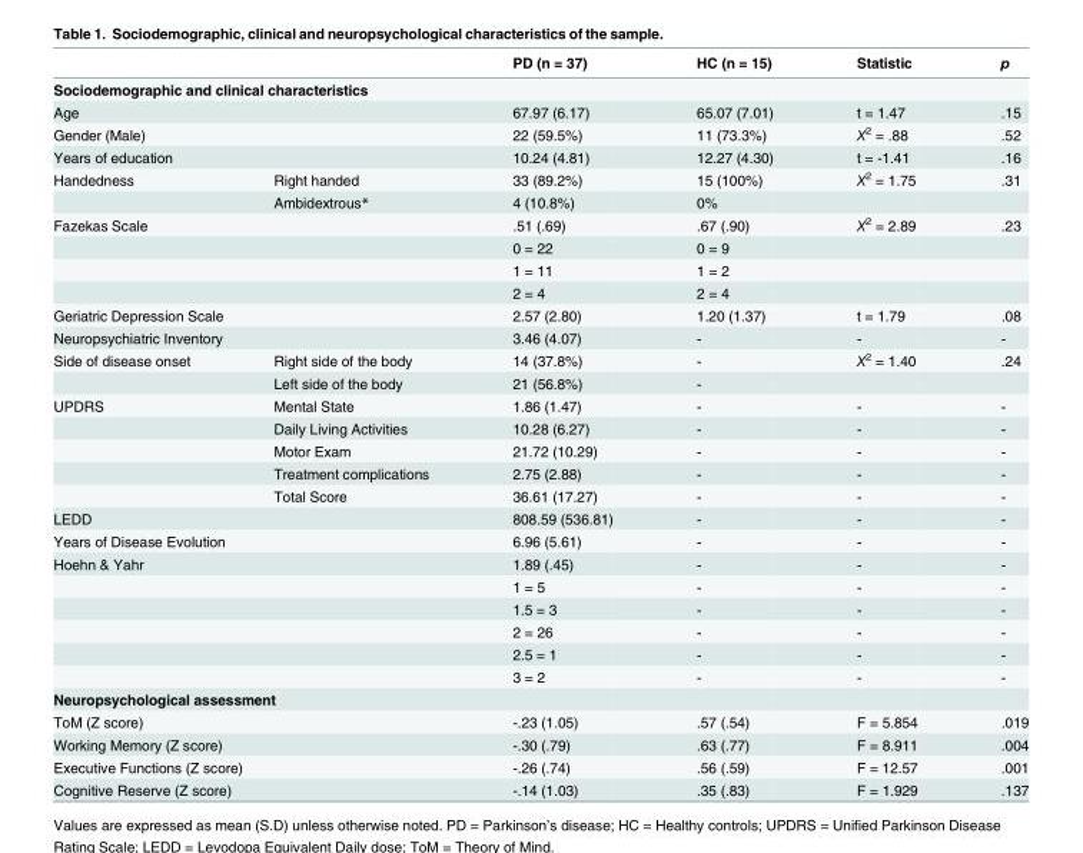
<table><thead><tr><td></td><td></td><td>PD (n = 37)</td><td>HC (n = 15)</td><td>Statistic</td><td>p</td></tr></thead><tbody><tr><td colspan="6">Sociodemographic and clinical characteristics</td></tr><tr><td colspan="2">Age</td><td>67.97 (6.17)</td><td>65.07 (7.01)</td><td>t = 1.47</td><td>.15</td></tr><tr><td colspan="2">Gender (Male)</td><td>22 (59.5%)</td><td>11 (73.3%)</td><td>X<sup>2</sup> = .88</td><td>.52</td></tr><tr><td colspan="2">Years of education</td><td>10.24 (4.81)</td><td>12.27 (4.30)</td><td>t = -1.41</td><td>.16</td></tr><tr><td rowspan="2">Handedness</td><td>Right handed</td><td>33 (89.2%)</td><td>15 (100%)</td><td>X<sup>2</sup> = 1.75</td><td>.31</td></tr><tr><td>Ambidextrous*</td><td>4 (10.8%)</td><td>0%</td><td></td><td></td></tr><tr><td rowspan="4" colspan="2">Fazekas Scale</td><td>.51 (.69)</td><td>.67 (.90)</td><td>X<sup>2</sup> = 2.89</td><td>.23</td></tr><tr><td>0 = 22</td><td>0 = 9</td><td></td><td></td></tr><tr><td>1 = 11</td><td>1 = 2</td><td></td><td></td></tr><tr><td>2 = 4</td><td>2 = 4</td><td></td><td></td></tr><tr><td colspan="2">Geriatric Depression Scale</td><td>2.57 (2.80)</td><td>1.20 (1.37)</td><td>t = 1.79</td><td>.08</td></tr><tr><td colspan="2">Neuropsychiatric Inventory</td><td>3.46 (4.07)</td><td>-</td><td>-</td><td>-</td></tr><tr><td rowspan="2">Side of disease onset</td><td>Right side of the body</td><td>14 (37.8%)</td><td>-</td><td>X<sup>2</sup> = 1.40</td><td>.24</td></tr><tr><td>Left side of the body</td><td>21 (56.8%)</td><td>-</td><td></td><td></td></tr><tr><td rowspan="5">UPDRS</td><td>Mental State</td><td>1.86 (1.47)</td><td>-</td><td>-</td><td>-</td></tr><tr><td>Daily Living Activities</td><td>10.28 (6.27)</td><td>-</td><td>-</td><td>-</td></tr><tr><td>Motor Exam</td><td>21.72 (10.29)</td><td>-</td><td>-</td><td>-</td></tr><tr><td>Treatment complications</td><td>2.75 (2.88)</td><td>-</td><td>-</td><td>-</td></tr><tr><td>Total Score</td><td>36.61 (17.27)</td><td>-</td><td>-</td><td>-</td></tr><tr><td colspan="2">LEDD</td><td>808.59 (536.81)</td><td>-</td><td>-</td><td>-</td></tr><tr><td colspan="2">Years of Disease Evolution</td><td>6.96 (5.61)</td><td>-</td><td>-</td><td>-</td></tr><tr><td rowspan="6" colspan="2">Hoehn &amp; Yahr</td><td>1.89 (.45)</td><td>-</td><td>-</td><td>-</td></tr><tr><td>1 = 5</td><td>-</td><td>-</td><td>-</td></tr><tr><td>1.5 = 3</td><td>-</td><td>-</td><td>-</td></tr><tr><td>2 = 26</td><td>-</td><td>-</td><td>-</td></tr><tr><td>2.5 = 1</td><td>-</td><td>-</td><td>-</td></tr><tr><td>3 = 2</td><td>-</td><td>-</td><td>-</td></tr><tr><td colspan="6">Neuropsychological assessment</td></tr><tr><td colspan="2">ToM (Z score)</td><td>-.23 (1.05)</td><td>.57 (.54)</td><td>F = 5.854</td><td>.019</td></tr><tr><td colspan="2">Working Memory (Z score)</td><td>-.30 (.79)</td><td>.63 (.77)</td><td>F = 8.911</td><td>.004</td></tr><tr><td colspan="2">Executive Functions (Z score)</td><td>-.26 (.74)</td><td>.56 (.59)</td><td>F = 12.57</td><td>.001</td></tr><tr><td colspan="2">Cognitive Reserve (Z score)</td><td>-.14 (1.03)</td><td>.35 (.83)</td><td>F = 1.929</td><td>.137</td></tr></tbody></table>